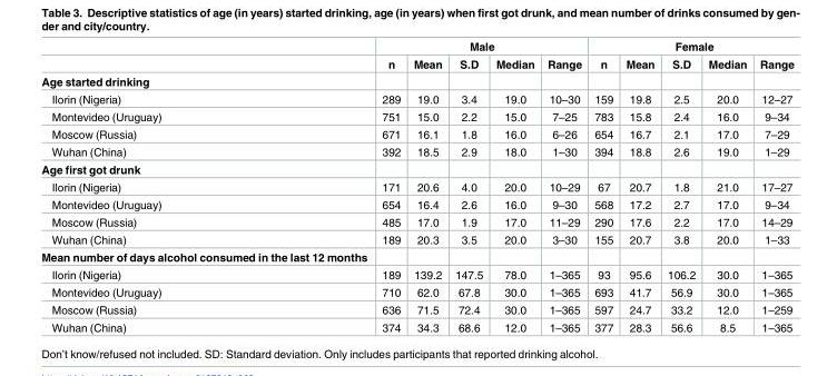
<table><thead><tr><td rowspan="2"></td><td colspan="5">Male</td><td colspan="5">Female</td></tr><tr><td>n</td><td>Mean</td><td>S.D</td><td>Median</td><td>Range</td><td>n</td><td>Mean</td><td>S.D</td><td>Median</td><td>Range</td></tr></thead><tbody><tr><td colspan="11">Age started drinking</td></tr><tr><td>Ilorin (Nigeria)</td><td>289</td><td>19.0</td><td>3.4</td><td>19.0</td><td>10–30</td><td>159</td><td>19.8</td><td>2.5</td><td>20.0</td><td>12–27</td></tr><tr><td>Montevideo (Uruguay)</td><td>751</td><td>15.0</td><td>2.2</td><td>15.0</td><td>7–25</td><td>783</td><td>15.8</td><td>2.4</td><td>16.0</td><td>9–34</td></tr><tr><td>Moscow (Russia)</td><td>671</td><td>16.1</td><td>1.8</td><td>16.0</td><td>6–26</td><td>654</td><td>16.7</td><td>2.1</td><td>17.0</td><td>7–29</td></tr><tr><td>Wuhan (China)</td><td>392</td><td>18.5</td><td>2.9</td><td>18.0</td><td>1–30</td><td>394</td><td>18.8</td><td>2.6</td><td>19.0</td><td>1–29</td></tr><tr><td colspan="11">Age first got drunk</td></tr><tr><td>Ilorin (Nigeria)</td><td>171</td><td>20.6</td><td>4.0</td><td>20.0</td><td>10–29</td><td>67</td><td>20.7</td><td>1.8</td><td>21.0</td><td>17–27</td></tr><tr><td>Montevideo (Uruguay)</td><td>654</td><td>16.4</td><td>2.6</td><td>16.0</td><td>9–30</td><td>568</td><td>17.2</td><td>2.7</td><td>17.0</td><td>9–34</td></tr><tr><td>Moscow (Russia)</td><td>485</td><td>17.0</td><td>1.9</td><td>17.0</td><td>11–29</td><td>290</td><td>17.6</td><td>2.2</td><td>17.0</td><td>14–29</td></tr><tr><td>Wuhan (China)</td><td>189</td><td>20.3</td><td>3.5</td><td>20.0</td><td>3–30</td><td>155</td><td>20.7</td><td>3.8</td><td>20.0</td><td>1–33</td></tr><tr><td colspan="11">Mean number of days alcohol consumed in the last 12 months</td></tr><tr><td>Ilorin (Nigeria)</td><td>189</td><td>139.2</td><td>147.5</td><td>78.0</td><td>1–365</td><td>93</td><td>95.6</td><td>106.2</td><td>30.0</td><td>1–365</td></tr><tr><td>Montevideo (Uruguay)</td><td>710</td><td>62.0</td><td>67.8</td><td>30.0</td><td>1–365</td><td>693</td><td>41.7</td><td>56.9</td><td>30.0</td><td>1–365</td></tr><tr><td>Moscow (Russia)</td><td>636</td><td>71.5</td><td>72.4</td><td>30.0</td><td>1–365</td><td>597</td><td>24.7</td><td>33.2</td><td>12.0</td><td>1–259</td></tr><tr><td>Wuhan (China)</td><td>374</td><td>34.3</td><td>68.6</td><td>12.0</td><td>1–365</td><td>377</td><td>28.3</td><td>56.6</td><td>8.5</td><td>1–365</td></tr></tbody></table>